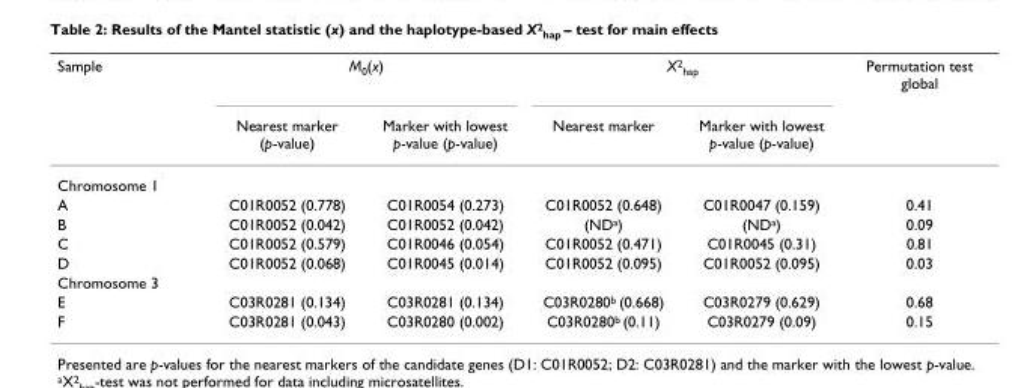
<table><thead><tr><td rowspan="2">Sample</td><td colspan="2">M0(x)</td><td colspan="2">X2hap</td><td rowspan="2">Permutation test global</td></tr><tr><td>Nearest marker (p-value)</td><td>Marker with lowest p-value (p-value)</td><td>Nearest marker</td><td>Marker with lowest p-value (p-value)</td></tr></thead><tbody><tr><td colspan="6">Chromosome 1</td></tr><tr><td>A</td><td>C01R0052 (0.778)</td><td>C01R0054 (0.273)</td><td>C01R0052 (0.648)</td><td>C01R0047 (0.159)</td><td>0.41</td></tr><tr><td>B</td><td>C01R0052 (0.042)</td><td>C01R0052 (0.042)</td><td>(NDa)</td><td>(NDa)</td><td>0.09</td></tr><tr><td>C</td><td>C01R0052 (0.579)</td><td>C01R0046 (0.054)</td><td>C01R0052 (0.471)</td><td>C01R0045 (0.31)</td><td>0.81</td></tr><tr><td>D</td><td>C01R0052 (0.068)</td><td>C01R0045 (0.014)</td><td>C01R0052 (0.095)</td><td>C01R0052 (0.095)</td><td>0.03</td></tr><tr><td colspan="6">Chromosome 3</td></tr><tr><td>E</td><td>C03R0281 (0.134)</td><td>C03R0281 (0.134)</td><td>C03R0280b (0.668)</td><td>C03R0279 (0.629)</td><td>0.68</td></tr><tr><td>F</td><td>C03R0281 (0.043)</td><td>C03R0280 (0.002)</td><td>C03R0280b (0.11)</td><td>C03R0279 (0.09)</td><td>0.15</td></tr></tbody></table>